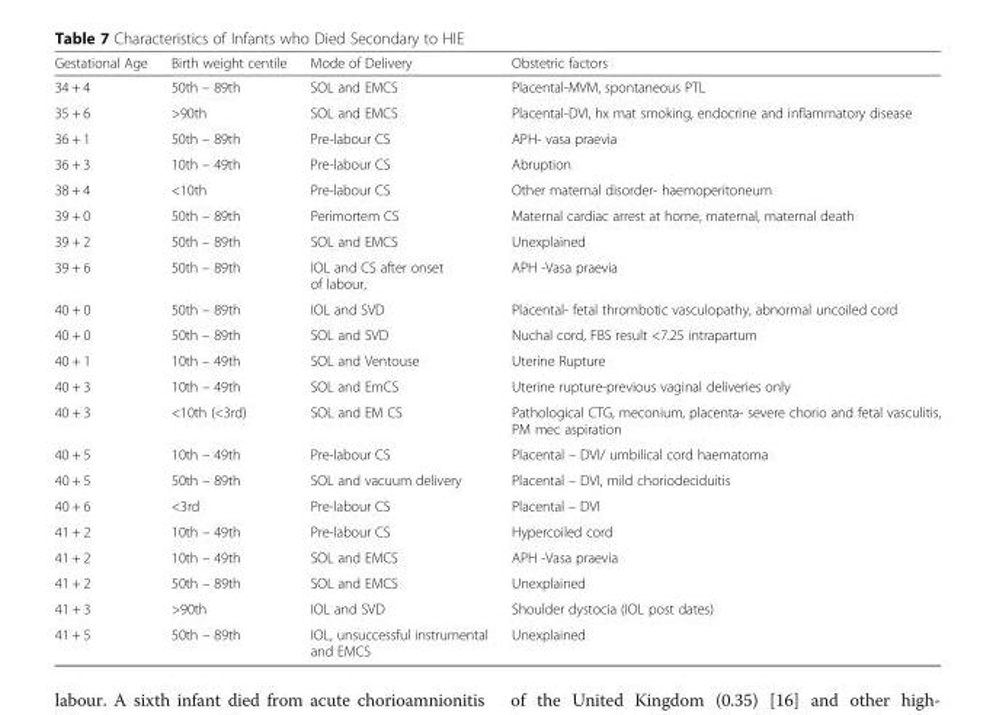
<table><thead><tr><td>Gestational Age</td><td>Birth weight centile</td><td>Mode of Delivery</td><td>Obstetric factors</td></tr></thead><tbody><tr><td>34 + 4</td><td>50th – 89th</td><td>SOL and EMCS</td><td>Placental-MVM, spontaneous PTL</td></tr><tr><td>35 + 6</td><td>&gt;90th</td><td>SOL and EMCS</td><td>Placental-DVI, hx mat smoking, endocrine and inflammatory disease</td></tr><tr><td>36 + 1</td><td>50th – 89th</td><td>Pre-labour CS</td><td>APH- vasa praevia</td></tr><tr><td>36 + 3</td><td>10th – 49th</td><td>Pre-labour CS</td><td>Abruption</td></tr><tr><td>38 + 4</td><td>&lt;10th</td><td>Pre-labour CS</td><td>Other maternal disorder- haemoperitoneum</td></tr><tr><td>39 + 0</td><td>50th – 89th</td><td>Perimortem CS</td><td>Maternal cardiac arrest at home, maternal, maternal death</td></tr><tr><td>39 + 2</td><td>50th – 89th</td><td>SOL and EMCS</td><td>Unexplained</td></tr><tr><td>39 + 6</td><td>50th – 89th</td><td>IOL and CS after onset of labour,</td><td>APH -Vasa praevia</td></tr><tr><td>40 + 0</td><td>50th – 89th</td><td>IOL and SVD</td><td>Placental- fetal thrombotic vasculopathy, abnormal uncoiled cord</td></tr><tr><td>40 + 0</td><td>50th – 89th</td><td>SOL and SVD</td><td>Nuchal cord, FBS result &lt;7.25 intrapartum</td></tr><tr><td>40 + 1</td><td>10th – 49th</td><td>SOL and Ventouse</td><td>Uterine Rupture</td></tr><tr><td>40 + 3</td><td>10th – 49th</td><td>SOL and EmCS</td><td>Uterine rupture-previous vaginal deliveries only</td></tr><tr><td>40 + 3</td><td>&lt;10th (&lt;3rd)</td><td>SOL and EM CS</td><td>Pathological CTG, meconium, placenta- severe chorio and fetal vasculitis, PM mec aspiration</td></tr><tr><td>40 + 5</td><td>10th – 49th</td><td>Pre-labour CS</td><td>Placental – DVI/ umbilical cord haematoma</td></tr><tr><td>40 + 5</td><td>50th – 89th</td><td>SOL and vacuum delivery</td><td>Placental – DVI, mild choriodeciduitis</td></tr><tr><td>40 + 6</td><td>&lt;3rd</td><td>Pre-labour CS</td><td>Placental – DVI</td></tr><tr><td>41 + 2</td><td>10th – 49th</td><td>Pre-labour CS</td><td>Hypercoiled cord</td></tr><tr><td>41 + 2</td><td>10th – 49th</td><td>SOL and EMCS</td><td>APH -Vasa praevia</td></tr><tr><td>41 + 2</td><td>50th – 89th</td><td>SOL and EMCS</td><td>Unexplained</td></tr><tr><td>41 + 3</td><td>&gt;90th</td><td>IOL and SVD</td><td>Shoulder dystocia (IOL post dates)</td></tr><tr><td>41 + 5</td><td>50th – 89th</td><td>IOL, unsuccessful instrumental and EMCS</td><td>Unexplained</td></tr></tbody></table>